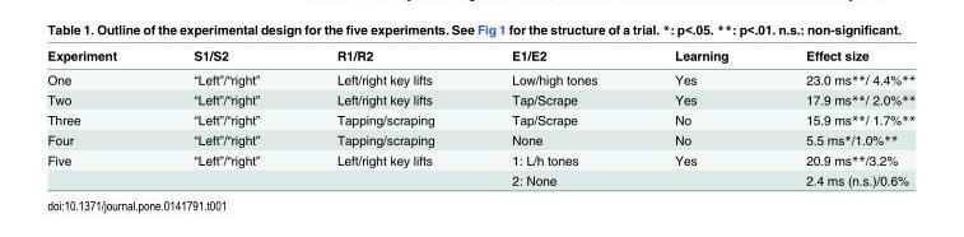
<table><thead><tr><td>Experiment</td><td>S1/S2</td><td>R1/R2</td><td>E1/E2</td><td>Learning</td><td>Effect size</td></tr></thead><tbody><tr><td>One</td><td>“Left”/“right”</td><td>Left/right key lifts</td><td>Low/high tones</td><td>Yes</td><td>23.0 ms**/ 4.4%**</td></tr><tr><td>Two</td><td>“Left”/“right”</td><td>Left/right key lifts</td><td>Tap/Scrape</td><td>Yes</td><td>17.9 ms**/ 2.0%**</td></tr><tr><td>Three</td><td>“Left”/“right”</td><td>Tapping/scraping</td><td>Tap/Scrape</td><td>No</td><td>15.9 ms**/ 1.7%**</td></tr><tr><td>Four</td><td>“Left”/“right”</td><td>Tapping/scraping</td><td>None</td><td>No</td><td>5.5 ms*/1.0%**</td></tr><tr><td rowspan="2">Five</td><td>“Left”/“right”</td><td>Left/right key lifts</td><td>1: L/h tones</td><td>Yes</td><td>20.9 ms**/3.2%</td></tr><tr><td></td><td></td><td>2: None</td><td></td><td>2.4 ms (n.s.)/0.6%</td></tr></tbody></table>